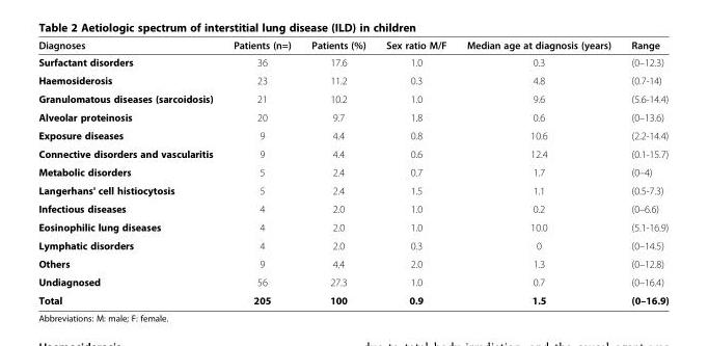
<table><thead><tr><td>Diagnoses</td><td>Patients (n=)</td><td>Patients (%)</td><td>Sex ratio M/F</td><td>Median age at diagnosis (years)</td><td>Range</td></tr></thead><tbody><tr><td>Surfactant disorders</td><td>36</td><td>17.6</td><td>1.0</td><td>0.3</td><td>(0–12.3)</td></tr><tr><td>Haemosiderosis</td><td>23</td><td>11.2</td><td>0.3</td><td>4.8</td><td>(0.7-14)</td></tr><tr><td>Granulomatous diseases (sarcoidosis)</td><td>21</td><td>10.2</td><td>1.0</td><td>9.6</td><td>(5.6-14.4)</td></tr><tr><td>Alveolar proteinosis</td><td>20</td><td>9.7</td><td>1.8</td><td>0.6</td><td>(0–13.6)</td></tr><tr><td>Exposure diseases</td><td>9</td><td>4.4</td><td>0.8</td><td>10.6</td><td>(2.2-14.4)</td></tr><tr><td>Connective disorders and vascularitis</td><td>9</td><td>4.4</td><td>0.6</td><td>12.4</td><td>(0.1-15.7)</td></tr><tr><td>Metabolic disorders</td><td>5</td><td>2.4</td><td>0.7</td><td>1.7</td><td>(0–4)</td></tr><tr><td>Langerhans&#x27; cell histiocytosis</td><td>5</td><td>2.4</td><td>1.5</td><td>1.1</td><td>(0.5-7.3)</td></tr><tr><td>Infectious diseases</td><td>4</td><td>2.0</td><td>1.0</td><td>0.2</td><td>(0–6.6)</td></tr><tr><td>Eosinophilic lung diseases</td><td>4</td><td>2.0</td><td>1.0</td><td>10.0</td><td>(5.1-16.9)</td></tr><tr><td>Lymphatic disorders</td><td>4</td><td>2.0</td><td>0.3</td><td>0</td><td>(0–14.5)</td></tr><tr><td>Others</td><td>9</td><td>4.4</td><td>2.0</td><td>1.3</td><td>(0–12.8)</td></tr><tr><td>Undiagnosed</td><td>56</td><td>27.3</td><td>1.0</td><td>0.7</td><td>(0–16.4)</td></tr><tr><td>Total</td><td>205</td><td>100</td><td>0.9</td><td>1.5</td><td>(0–16.9)</td></tr></tbody></table>